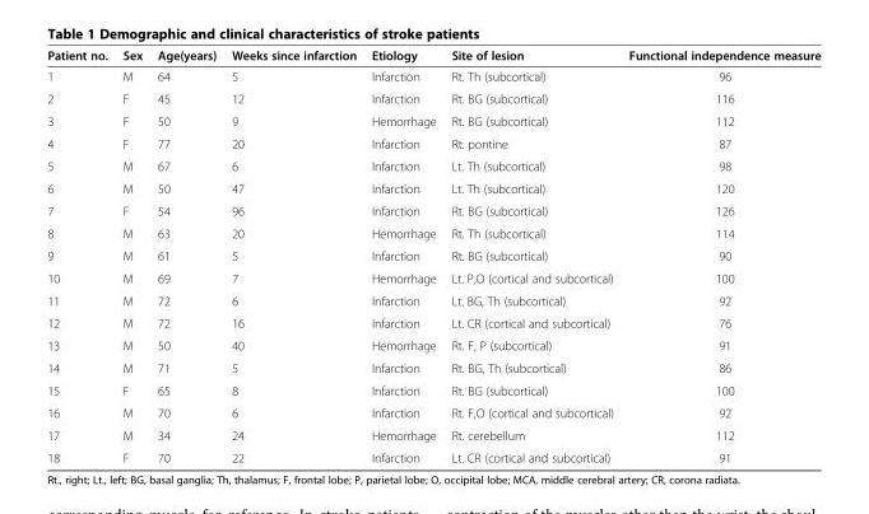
<table><thead><tr><td>Patient no.</td><td>Sex</td><td>Age(years)</td><td>Weeks since infarction</td><td>Etiology</td><td>Site of lesion</td><td>Functional independence measure</td></tr></thead><tbody><tr><td>1</td><td>M</td><td>64</td><td>5</td><td>Infarction</td><td>Rt. Th (subcortical)</td><td>96</td></tr><tr><td>2</td><td>F</td><td>45</td><td>12</td><td>Infarction</td><td>Rt. BG (subcortical)</td><td>116</td></tr><tr><td>3</td><td>F</td><td>50</td><td>9</td><td>Hemorrhage</td><td>Rt. BG (subcortical)</td><td>112</td></tr><tr><td>4</td><td>F</td><td>77</td><td>20</td><td>Infarction</td><td>Rt. pontine</td><td>87</td></tr><tr><td>5</td><td>M</td><td>67</td><td>6</td><td>Infarction</td><td>Lt. Th (subcortical)</td><td>98</td></tr><tr><td>6</td><td>M</td><td>50</td><td>47</td><td>Infarction</td><td>Lt. Th (subcortical)</td><td>120</td></tr><tr><td>7</td><td>F</td><td>54</td><td>96</td><td>Infarction</td><td>Rt. BG (subcortical)</td><td>126</td></tr><tr><td>8</td><td>M</td><td>63</td><td>20</td><td>Hemorrhage</td><td>Rt. Th (subcortical)</td><td>114</td></tr><tr><td>9</td><td>M</td><td>61</td><td>5</td><td>Infarction</td><td>Rt. BG (subcortical)</td><td>90</td></tr><tr><td>10</td><td>M</td><td>69</td><td>7</td><td>Hemorrhage</td><td>Lt. P,O (cortical and subcortical)</td><td>100</td></tr><tr><td>11</td><td>M</td><td>72</td><td>6</td><td>Infarction</td><td>Lt. BG, Th (subcortical)</td><td>92</td></tr><tr><td>12</td><td>M</td><td>72</td><td>16</td><td>Infarction</td><td>Lt. CR (cortical and subcortical)</td><td>76</td></tr><tr><td>13</td><td>M</td><td>50</td><td>40</td><td>Hemorrhage</td><td>Rt. F, P (subcortical)</td><td>91</td></tr><tr><td>14</td><td>M</td><td>71</td><td>5</td><td>Infarction</td><td>Rt. BG, Th (subcortical)</td><td>86</td></tr><tr><td>15</td><td>F</td><td>65</td><td>8</td><td>Infarction</td><td>Rt. BG (subcortical)</td><td>100</td></tr><tr><td>16</td><td>M</td><td>70</td><td>6</td><td>Infarction</td><td>Rt. F,O (cortical and subcortical)</td><td>92</td></tr><tr><td>17</td><td>M</td><td>34</td><td>24</td><td>Hemorrhage</td><td>Rt. cerebellum</td><td>112</td></tr><tr><td>18</td><td>F</td><td>70</td><td>22</td><td>Infarction</td><td>Lt. CR (cortical and subcortical)</td><td>91</td></tr></tbody></table>